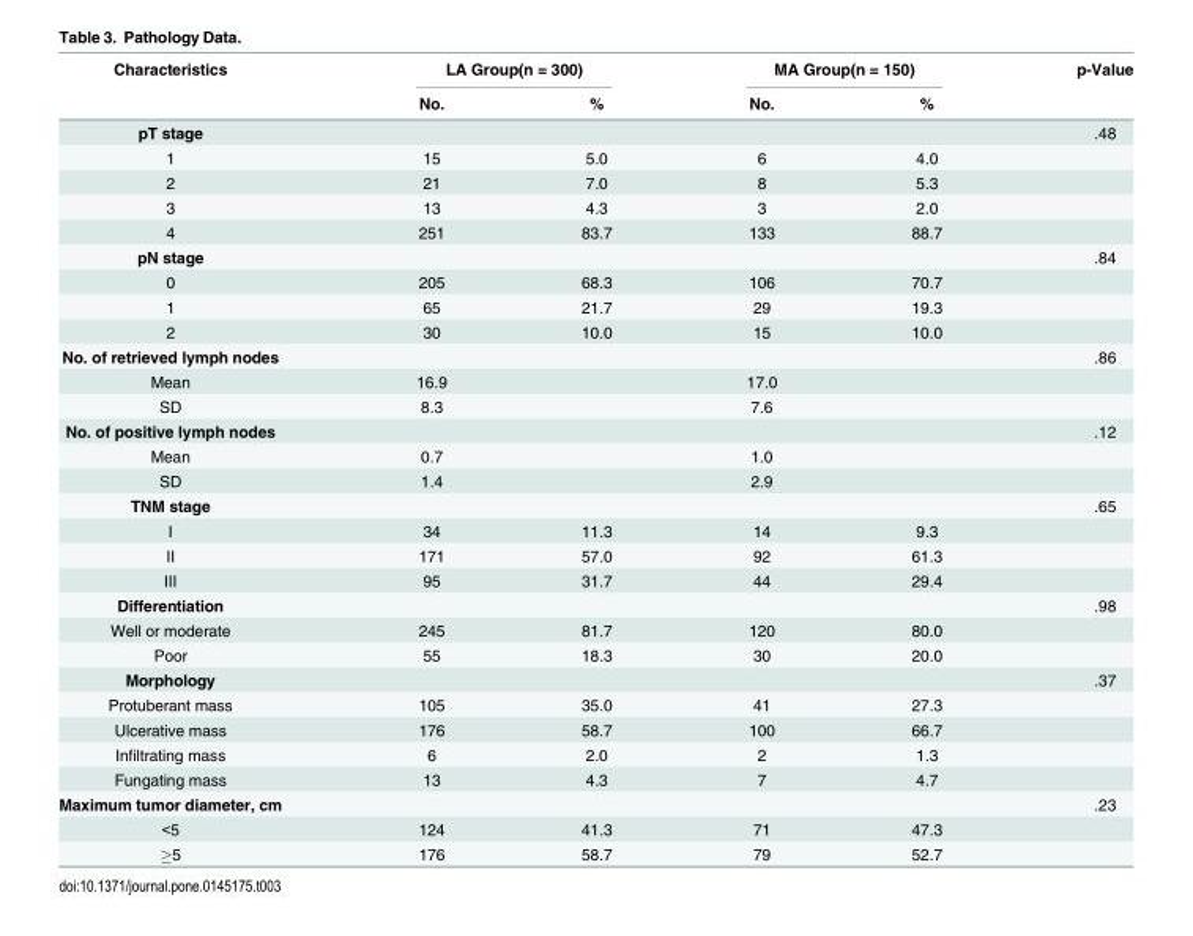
<table><thead><tr><td rowspan="2">Characteristics</td><td colspan="2">LA Group(n = 300)</td><td colspan="2">MA Group(n = 150)</td><td rowspan="2">p-Value</td></tr><tr><td>No.</td><td>%</td><td>No.</td><td>%</td></tr></thead><tbody><tr><td>pT stage</td><td></td><td></td><td></td><td></td><td>.48</td></tr><tr><td>1</td><td>15</td><td>5.0</td><td>6</td><td>4.0</td><td></td></tr><tr><td>2</td><td>21</td><td>7.0</td><td>8</td><td>5.3</td><td></td></tr><tr><td>3</td><td>13</td><td>4.3</td><td>3</td><td>2.0</td><td></td></tr><tr><td>4</td><td>251</td><td>83.7</td><td>133</td><td>88.7</td><td></td></tr><tr><td>pN stage</td><td></td><td></td><td></td><td></td><td>.84</td></tr><tr><td>0</td><td>205</td><td>68.3</td><td>106</td><td>70.7</td><td></td></tr><tr><td>1</td><td>65</td><td>21.7</td><td>29</td><td>19.3</td><td></td></tr><tr><td>2</td><td>30</td><td>10.0</td><td>15</td><td>10.0</td><td></td></tr><tr><td>No. of retrieved lymph nodes</td><td></td><td></td><td></td><td></td><td>.86</td></tr><tr><td>Mean</td><td>16.9</td><td></td><td>17.0</td><td></td><td></td></tr><tr><td>SD</td><td>8.3</td><td></td><td>7.6</td><td></td><td></td></tr><tr><td>No. of positive lymph nodes</td><td></td><td></td><td></td><td></td><td>.12</td></tr><tr><td>Mean</td><td>0.7</td><td></td><td>1.0</td><td></td><td></td></tr><tr><td>SD</td><td>1.4</td><td></td><td>2.9</td><td></td><td></td></tr><tr><td>TNM stage</td><td></td><td></td><td></td><td></td><td>.65</td></tr><tr><td>I</td><td>34</td><td>11.3</td><td>14</td><td>9.3</td><td></td></tr><tr><td>II</td><td>171</td><td>57.0</td><td>92</td><td>61.3</td><td></td></tr><tr><td>III</td><td>95</td><td>31.7</td><td>44</td><td>29.4</td><td></td></tr><tr><td>Differentiation</td><td></td><td></td><td></td><td></td><td>.98</td></tr><tr><td>Well or moderate</td><td>245</td><td>81.7</td><td>120</td><td>80.0</td><td></td></tr><tr><td>Poor</td><td>55</td><td>18.3</td><td>30</td><td>20.0</td><td></td></tr><tr><td>Morphology</td><td></td><td></td><td></td><td></td><td>.37</td></tr><tr><td>Protuberant mass</td><td>105</td><td>35.0</td><td>41</td><td>27.3</td><td></td></tr><tr><td>Ulcerative mass</td><td>176</td><td>58.7</td><td>100</td><td>66.7</td><td></td></tr><tr><td>Infiltrating mass</td><td>6</td><td>2.0</td><td>2</td><td>1.3</td><td></td></tr><tr><td>Fungating mass</td><td>13</td><td>4.3</td><td>7</td><td>4.7</td><td></td></tr><tr><td>Maximum tumor diameter, cm</td><td></td><td></td><td></td><td></td><td>.23</td></tr><tr><td>&lt;5</td><td>124</td><td>41.3</td><td>71</td><td>47.3</td><td></td></tr><tr><td>≥5</td><td>176</td><td>58.7</td><td>79</td><td>52.7</td><td></td></tr></tbody></table>